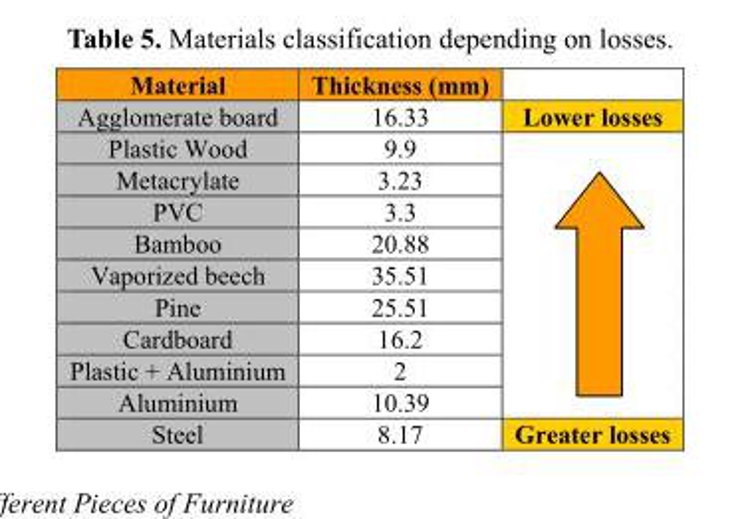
<table><thead><tr><td>Material</td><td>Thickness (mm)</td><td></td></tr></thead><tbody><tr><td>Agglomerate board</td><td>16.33</td><td>Lower losses</td></tr><tr><td>Plastic Wood</td><td>9.9</td><td rowspan="9"></td></tr><tr><td>Metacrylate</td><td>3.23</td></tr><tr><td>PVC</td><td>3.3</td></tr><tr><td>Bamboo</td><td>20.88</td></tr><tr><td>Vaporized beech</td><td>35.51</td></tr><tr><td>Pine</td><td>25.51</td></tr><tr><td>Cardboard</td><td>16.2</td></tr><tr><td>Plastic + Aluminium</td><td>2</td></tr><tr><td>Aluminium</td><td>10.39</td></tr><tr><td>Steel</td><td>8.17</td><td>Greater losses</td></tr></tbody></table>